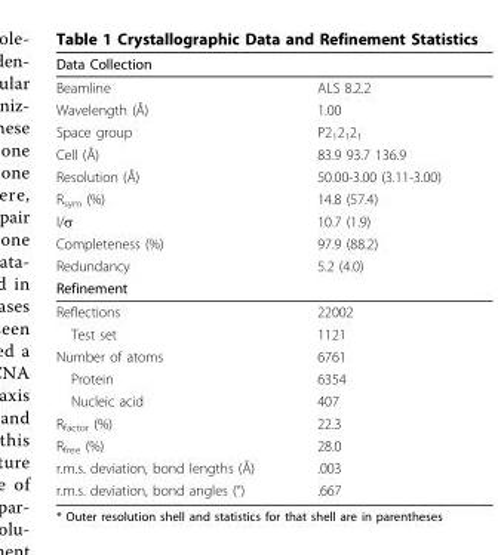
<table><thead><tr><td>Data Collection</td><td></td></tr></thead><tbody><tr><td>Beamline</td><td>ALS 8.2.2</td></tr><tr><td>Wavelength (Å)</td><td>1.00</td></tr><tr><td>Space group</td><td>P2<sub>1</sub>2<sub>1</sub>2<sub>1</sub></td></tr><tr><td>Cell (Å)</td><td>83.9 93.7 136.9</td></tr><tr><td>Resolution (Å)</td><td>50.00-3.00 (3.11-3.00)</td></tr><tr><td>R<sub>sym</sub> (%)</td><td>14.8 (57.4)</td></tr><tr><td>I/σ</td><td>10.7 (1.9)</td></tr><tr><td>Completeness (%)</td><td>97.9 (88.2)</td></tr><tr><td>Redundancy</td><td>5.2 (4.0)</td></tr><tr><td colspan="2">Refinement</td></tr><tr><td>Reflections</td><td>22002</td></tr><tr><td>Test set</td><td>1121</td></tr><tr><td>Number of atoms</td><td>6761</td></tr><tr><td>Protein</td><td>6354</td></tr><tr><td>Nucleic acid</td><td>407</td></tr><tr><td>R<sub>factor</sub> (%)</td><td>22.3</td></tr><tr><td>R<sub>free</sub> (%)</td><td>28.0</td></tr><tr><td>r.m.s. deviation, bond lengths (Å)</td><td>.003</td></tr><tr><td>r.m.s. deviation, bond angles (°)</td><td>.667</td></tr></tbody></table>